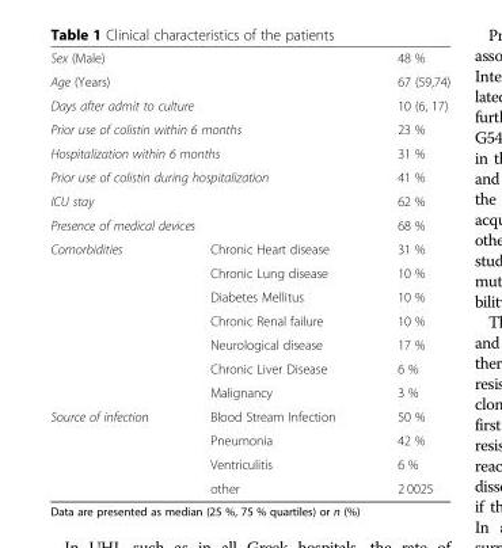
<table><tbody><tr><td colspan="2">Sex (Male)</td><td>48 %</td></tr><tr><td colspan="2">Age (Years)</td><td>67 (59,74)</td></tr><tr><td colspan="2">Days after admit to culture</td><td>10 (6, 17)</td></tr><tr><td colspan="2">Prior use of colistin within 6 months</td><td>23 %</td></tr><tr><td colspan="2">Hospitalization within 6 months</td><td>31 %</td></tr><tr><td colspan="2">Prior use of colistin during hospitalization</td><td>41 %</td></tr><tr><td colspan="2">ICU stay</td><td>62 %</td></tr><tr><td colspan="2">Presence of medical devices</td><td>68 %</td></tr><tr><td rowspan="7">Comorbidities</td><td>Chronic Heart disease</td><td>31 %</td></tr><tr><td>Chronic Lung disease</td><td>10 %</td></tr><tr><td>Diabetes Mellitus</td><td>10 %</td></tr><tr><td>Chronic Renal failure</td><td>10 %</td></tr><tr><td>Neurological disease</td><td>17 %</td></tr><tr><td>Chronic Liver Disease</td><td>6 %</td></tr><tr><td>Malignancy</td><td>3 %</td></tr><tr><td rowspan="4">Source of infection</td><td>Blood Stream Infection</td><td>50 %</td></tr><tr><td>Pneumonia</td><td>42 %</td></tr><tr><td>Ventriculitis</td><td>6 %</td></tr><tr><td>other</td><td>2 0025</td></tr></tbody></table>